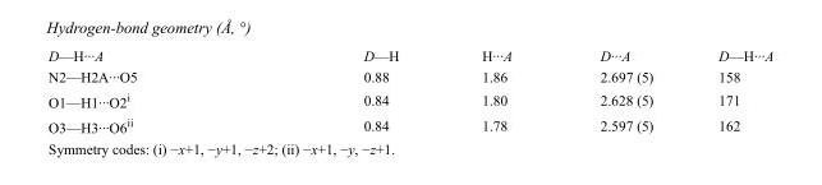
<table><tbody><tr><td>D—H···A</td><td>D—H</td><td>H···A</td><td>D···A</td><td>D—H···A</td></tr><tr><td>N2—H2A···O5</td><td>0.88</td><td>1.86</td><td>2.697 (5)</td><td>158</td></tr><tr><td>O1—H1···O2<sup>i</sup></td><td>0.84</td><td>1.80</td><td>2.628 (5)</td><td>171</td></tr><tr><td>O3—H3···O6<sup>ii</sup></td><td>0.84</td><td>1.78</td><td>2.597 (5)</td><td>162</td></tr></tbody></table>